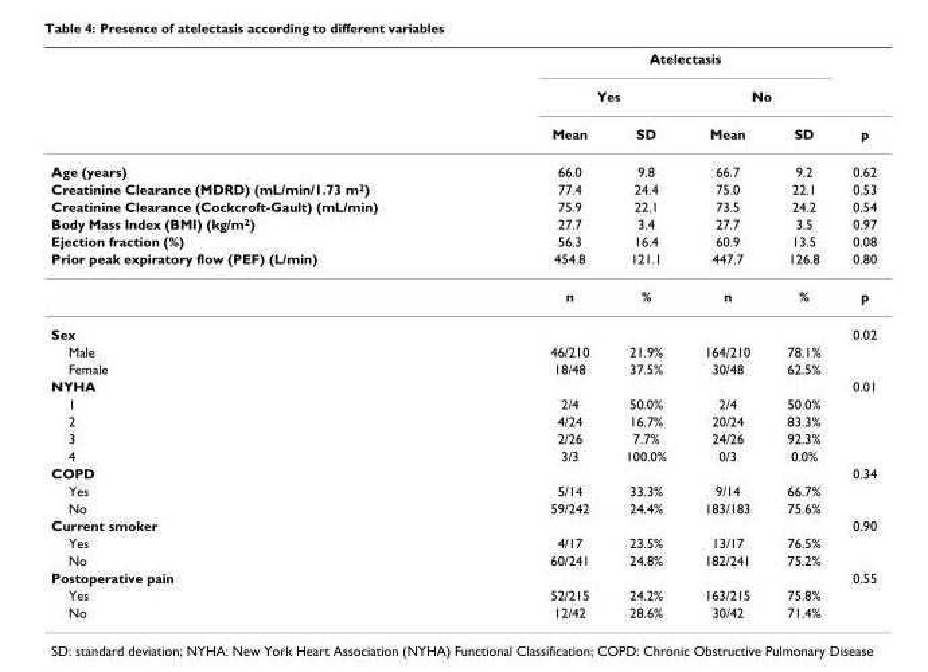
<table><thead><tr><td rowspan="3"></td><td colspan="4">Atelectasis</td><td rowspan="3">p</td></tr><tr><td colspan="2">Yes</td><td colspan="2">No</td></tr><tr><td>Mean</td><td>SD</td><td>Mean</td><td>SD</td></tr></thead><tbody><tr><td>Age (years)</td><td>66.0</td><td>9.8</td><td>66.7</td><td>9.2</td><td>0.62</td></tr><tr><td>Creatinine Clearance (MDRD) (mL/min/1.73 m<sup>2</sup>)</td><td>77.4</td><td>24.4</td><td>75.0</td><td>22.1</td><td>0.53</td></tr><tr><td>Creatinine Clearance (Cockcroft-Gault) (mL/min)</td><td>75.9</td><td>22.1</td><td>73.5</td><td>24.2</td><td>0.54</td></tr><tr><td>Body Mass Index (BMI) (kg/m<sup>2</sup>)</td><td>27.7</td><td>3.4</td><td>27.7</td><td>3.5</td><td>0.97</td></tr><tr><td>Ejection fraction (%)</td><td>56.3</td><td>16.4</td><td>60.9</td><td>13.5</td><td>0.08</td></tr><tr><td rowspan="2">Prior peak expiratory flow (PEF) (L/min)</td><td>454.8</td><td>121.1</td><td>447.7</td><td>126.8</td><td>0.80</td></tr><tr><td>n</td><td>%</td><td>n</td><td>%</td><td>p</td></tr><tr><td>Sex</td><td></td><td></td><td></td><td></td><td>0.02</td></tr><tr><td>Male</td><td>46/210</td><td>21.9%</td><td>164/210</td><td>78.1%</td><td></td></tr><tr><td>Female</td><td>18/48</td><td>37.5%</td><td>30/48</td><td>62.5%</td><td></td></tr><tr><td>NYHA</td><td></td><td></td><td></td><td></td><td>0.01</td></tr><tr><td>1</td><td>2/4</td><td>50.0%</td><td>2/4</td><td>50.0%</td><td></td></tr><tr><td>2</td><td>4/24</td><td>16.7%</td><td>20/24</td><td>83.3%</td><td></td></tr><tr><td>3</td><td>2/26</td><td>7.7%</td><td>24/26</td><td>92.3%</td><td></td></tr><tr><td>4</td><td>3/3</td><td>100.0%</td><td>0/3</td><td>0.0%</td><td></td></tr><tr><td>COPD</td><td></td><td></td><td></td><td></td><td>0.34</td></tr><tr><td>Yes</td><td>5/14</td><td>33.3%</td><td>9/14</td><td>66.7%</td><td></td></tr><tr><td>No</td><td>59/242</td><td>24.4%</td><td>183/183</td><td>75.6%</td><td></td></tr><tr><td>Current smoker</td><td></td><td></td><td></td><td></td><td>0.90</td></tr><tr><td>Yes</td><td>4/17</td><td>23.5%</td><td>13/17</td><td>76.5%</td><td></td></tr><tr><td>No</td><td>60/241</td><td>24.8%</td><td>182/241</td><td>75.2%</td><td></td></tr><tr><td>Postoperative pain</td><td></td><td></td><td></td><td></td><td>0.55</td></tr><tr><td>Yes</td><td>52/215</td><td>24.2%</td><td>163/215</td><td>75.8%</td><td></td></tr><tr><td>No</td><td>12/42</td><td>28.6%</td><td>30/42</td><td>71.4%</td><td></td></tr></tbody></table>